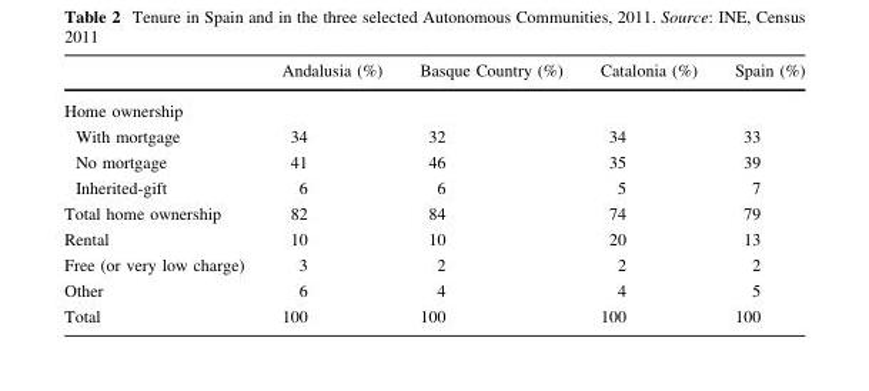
<table><thead><tr><td></td><td>Andalusia (%)</td><td>Basque Country (%)</td><td>Catalonia (%)</td><td>Spain (%)</td></tr></thead><tbody><tr><td colspan="5">Home ownership</td></tr><tr><td>With mortgage</td><td>34</td><td>32</td><td>34</td><td>33</td></tr><tr><td>No mortgage</td><td>41</td><td>46</td><td>35</td><td>39</td></tr><tr><td>Inherited-gift</td><td>6</td><td>6</td><td>5</td><td>7</td></tr><tr><td>Total home ownership</td><td>82</td><td>84</td><td>74</td><td>79</td></tr><tr><td>Rental</td><td>10</td><td>10</td><td>20</td><td>13</td></tr><tr><td>Free (or very low charge)</td><td>3</td><td>2</td><td>2</td><td>2</td></tr><tr><td>Other</td><td>6</td><td>4</td><td>4</td><td>5</td></tr><tr><td>Total</td><td>100</td><td>100</td><td>100</td><td>100</td></tr></tbody></table>